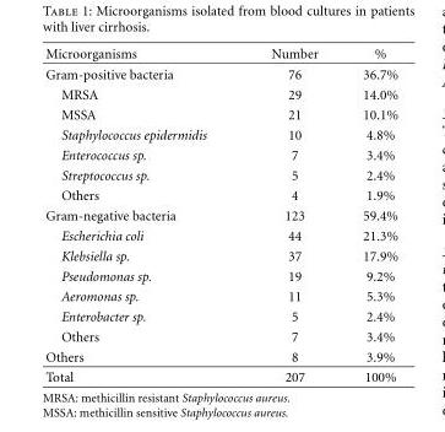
<table><thead><tr><td>Microorganisms</td><td>Number</td><td>%</td></tr></thead><tbody><tr><td>Gram-positive bacteria</td><td>76</td><td>36.7%</td></tr><tr><td>MRSA</td><td>29</td><td>14.0%</td></tr><tr><td>MSSA</td><td>21</td><td>10.1%</td></tr><tr><td>Staphylococcus epidermidis</td><td>10</td><td>4.8%</td></tr><tr><td>Enterococcus sp.</td><td>7</td><td>3.4%</td></tr><tr><td>Streptococcus sp.</td><td>5</td><td>2.4%</td></tr><tr><td>Others</td><td>4</td><td>1.9%</td></tr><tr><td>Gram-negative bacteria</td><td>123</td><td>59.4%</td></tr><tr><td>Escherichia coli</td><td>44</td><td>21.3%</td></tr><tr><td>Klebsiella sp.</td><td>37</td><td>17.9%</td></tr><tr><td>Pseudomonas sp.</td><td>19</td><td>9.2%</td></tr><tr><td>Aeromonas sp.</td><td>11</td><td>5.3%</td></tr><tr><td>Enterobacter sp.</td><td>5</td><td>2.4%</td></tr><tr><td>Others</td><td>7</td><td>3.4%</td></tr><tr><td>Others</td><td>8</td><td>3.9%</td></tr><tr><td>Total</td><td>207</td><td>100%</td></tr></tbody></table>